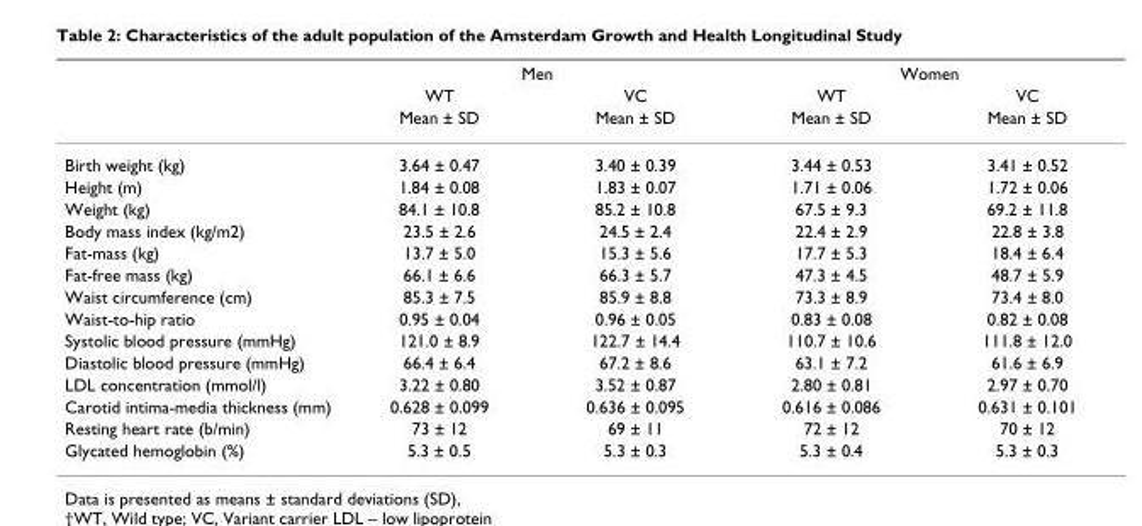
<table><thead><tr><td rowspan="3"></td><td colspan="2">Men</td><td colspan="2">Women</td></tr><tr><td rowspan="2">WT Mean ± SD</td><td rowspan="2">VC Mean ± SD</td><td rowspan="2">WT Mean ± SD</td><td rowspan="2">VC Mean ± SD</td></tr><tr></tr></thead><tbody><tr><td>Birth weight (kg)</td><td>3.64 ± 0.47</td><td>3.40 ± 0.39</td><td>3.44 ± 0.53</td><td>3.41 ± 0.52</td></tr><tr><td>Height (m)</td><td>1.84 ± 0.08</td><td>1.83 ± 0.07</td><td>1.71 ± 0.06</td><td>1.72 ± 0.06</td></tr><tr><td>Weight (kg)</td><td>84.1 ± 10.8</td><td>85.2 ± 10.8</td><td>67.5 ± 9.3</td><td>69.2 ± 11.8</td></tr><tr><td>Body mass index (kg/m2)</td><td>23.5 ± 2.6</td><td>24.5 ± 2.4</td><td>22.4 ± 2.9</td><td>22.8 ± 3.8</td></tr><tr><td>Fat-mass (kg)</td><td>13.7 ± 5.0</td><td>15.3 ± 5.6</td><td>17.7 ± 5.3</td><td>18.4 ± 6.4</td></tr><tr><td>Fat-free mass (kg)</td><td>66.1 ± 6.6</td><td>66.3 ± 5.7</td><td>47.3 ± 4.5</td><td>48.7 ± 5.9</td></tr><tr><td>Waist circumference (cm)</td><td>85.3 ± 7.5</td><td>85.9 ± 8.8</td><td>73.3 ± 8.9</td><td>73.4 ± 8.0</td></tr><tr><td>Waist-to-hip ratio</td><td>0.95 ± 0.04</td><td>0.96 ± 0.05</td><td>0.83 ± 0.08</td><td>0.82 ± 0.08</td></tr><tr><td>Systolic blood pressure (mmHg)</td><td>121.0 ± 8.9</td><td>122.7 ± 14.4</td><td>110.7 ± 10.6</td><td>111.8 ± 12.0</td></tr><tr><td>Diastolic blood pressure (mmHg)</td><td>66.4 ± 6.4</td><td>67.2 ± 8.6</td><td>63.1 ± 7.2</td><td>61.6 ± 6.9</td></tr><tr><td>LDL concentration (mmol/l)</td><td>3.22 ± 0.80</td><td>3.52 ± 0.87</td><td>2.80 ± 0.81</td><td>2.97 ± 0.70</td></tr><tr><td>Carotid intima-media thickness (mm)</td><td>0.628 ± 0.099</td><td>0.636 ± 0.095</td><td>0.616 ± 0.086</td><td>0.631 ± 0.101</td></tr><tr><td>Resting heart rate (b/min)</td><td>73 ± 12</td><td>69 ± 11</td><td>72 ± 12</td><td>70 ± 12</td></tr><tr><td>Glycated hemoglobin (%)</td><td>5.3 ± 0.5</td><td>5.3 ± 0.3</td><td>5.3 ± 0.4</td><td>5.3 ± 0.3</td></tr></tbody></table>